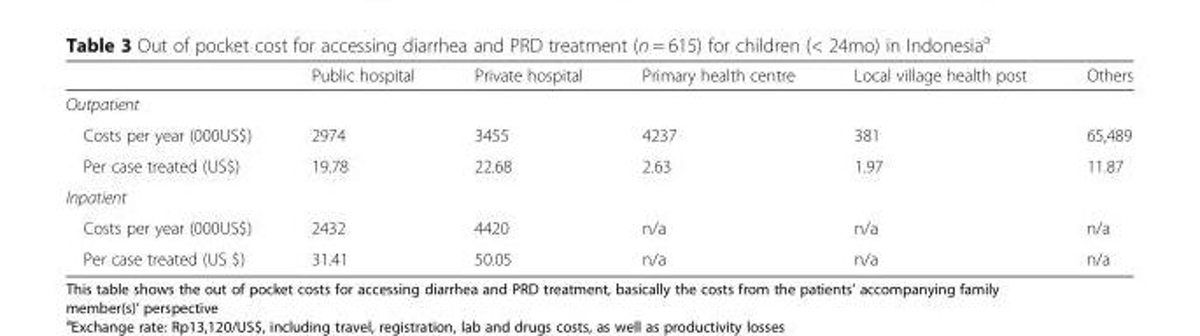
<table><thead><tr><td></td><td>Public hospital</td><td>Private hospital</td><td>Primary health centre</td><td>Local village health post</td><td>Others</td></tr></thead><tbody><tr><td colspan="6">Outpatient</td></tr><tr><td>Costs per year (000US$)</td><td>2974</td><td>3455</td><td>4237</td><td>381</td><td>65,489</td></tr><tr><td>Per case treated (US$)</td><td>19.78</td><td>22.68</td><td>2.63</td><td>1.97</td><td>11.87</td></tr><tr><td colspan="6">Inpatient</td></tr><tr><td>Costs per year (000US$)</td><td>2432</td><td>4420</td><td>n/a</td><td>n/a</td><td>n/a</td></tr><tr><td>Per case treated (US $)</td><td>31.41</td><td>50.05</td><td>n/a</td><td>n/a</td><td>n/a</td></tr></tbody></table>